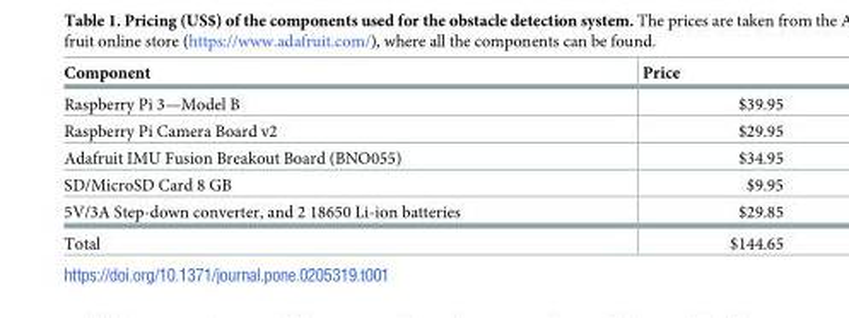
<table><thead><tr><td>Component</td><td>Price</td></tr></thead><tbody><tr><td>Raspberry Pi 3—Model B</td><td>$39.95</td></tr><tr><td>Raspberry Pi Camera Board v2</td><td>$29.95</td></tr><tr><td>Adafruit IMU Fusion Breakout Board (BNO055)</td><td>$34.95</td></tr><tr><td>SD/MicroSD Card 8 GB</td><td>$9.95</td></tr><tr><td>5V/3A Step-down converter, and 2 18650 Li-ion batteries</td><td>$29.85</td></tr><tr><td>Total</td><td>$144.65</td></tr></tbody></table>